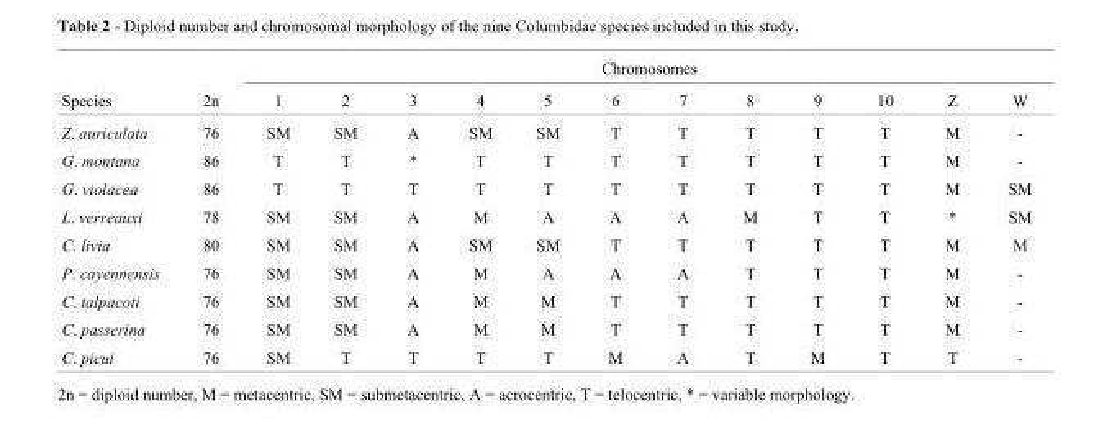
<table><thead><tr><td rowspan="2">Species</td><td colspan="13">Chromosomes</td></tr><tr><td>2n</td><td>1</td><td>2</td><td>3</td><td>4</td><td>5</td><td>6</td><td>7</td><td>8</td><td>9</td><td>10</td><td>Z</td><td>W</td></tr></thead><tbody><tr><td>Z. auriculata</td><td>76</td><td>SM</td><td>SM</td><td>A</td><td>SM</td><td>SM</td><td>T</td><td>T</td><td>T</td><td>T</td><td>T</td><td>M</td><td>-</td></tr><tr><td>G. montana</td><td>86</td><td>T</td><td>T</td><td>*</td><td>T</td><td>T</td><td>T</td><td>T</td><td>T</td><td>T</td><td>T</td><td>M</td><td>-</td></tr><tr><td>G. violacea</td><td>86</td><td>T</td><td>T</td><td>T</td><td>T</td><td>T</td><td>T</td><td>T</td><td>T</td><td>T</td><td>T</td><td>M</td><td>SM</td></tr><tr><td>L. verreauxi</td><td>78</td><td>SM</td><td>SM</td><td>A</td><td>M</td><td>A</td><td>A</td><td>A</td><td>M</td><td>T</td><td>T</td><td>*</td><td>SM</td></tr><tr><td>C. livia</td><td>80</td><td>SM</td><td>SM</td><td>A</td><td>SM</td><td>SM</td><td>T</td><td>T</td><td>T</td><td>T</td><td>T</td><td>M</td><td>M</td></tr><tr><td>P. cayennensis</td><td>76</td><td>SM</td><td>SM</td><td>A</td><td>M</td><td>A</td><td>A</td><td>A</td><td>T</td><td>T</td><td>T</td><td>M</td><td>-</td></tr><tr><td>C. talpacoti</td><td>76</td><td>SM</td><td>SM</td><td>A</td><td>M</td><td>M</td><td>T</td><td>T</td><td>T</td><td>T</td><td>T</td><td>M</td><td>-</td></tr><tr><td>C. passerina</td><td>76</td><td>SM</td><td>SM</td><td>A</td><td>M</td><td>M</td><td>T</td><td>T</td><td>T</td><td>T</td><td>T</td><td>M</td><td>-</td></tr><tr><td>C. picui</td><td>76</td><td>SM</td><td>T</td><td>T</td><td>T</td><td>T</td><td>M</td><td>A</td><td>T</td><td>M</td><td>T</td><td>T</td><td>-</td></tr></tbody></table>